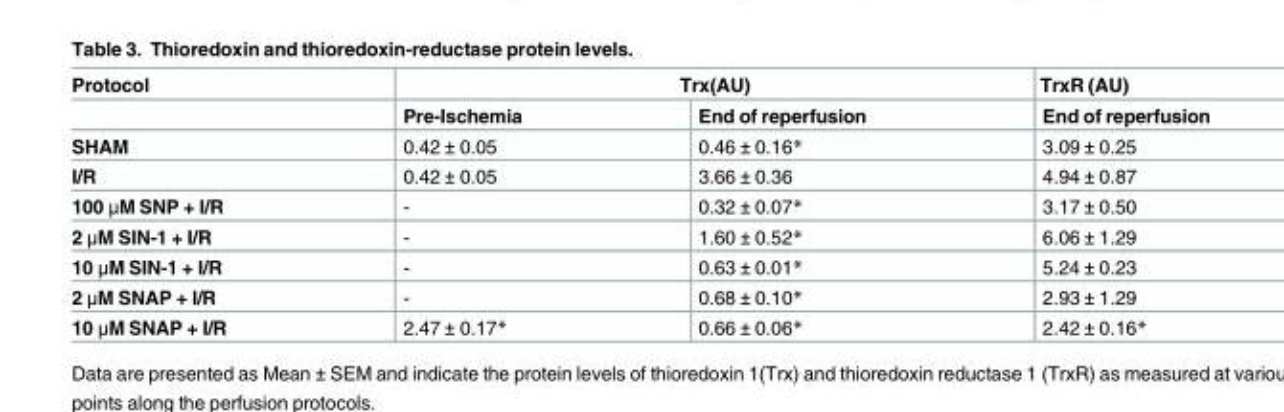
<table><thead><tr><td rowspan="2">Protocol</td><td colspan="2">Trx(AU)</td><td rowspan="2">TrxR (AU) End of reperfusion</td></tr><tr><td>Pre-Ischemia</td><td>End of reperfusion</td></tr></thead><tbody><tr><td>SHAM</td><td>0.42 ± 0.05</td><td>0.46 ± 0.16*</td><td>3.09 ± 0.25</td></tr><tr><td>I/R</td><td>0.42 ± 0.05</td><td>3.66 ± 0.36</td><td>4.94 ± 0.87</td></tr><tr><td>100 μM SNP + I/R</td><td>-</td><td>0.32 ± 0.07*</td><td>3.17 ± 0.50</td></tr><tr><td>2 μM SIN-1 + I/R</td><td>-</td><td>1.60 ± 0.52*</td><td>6.06 ± 1.29</td></tr><tr><td>10 μM SIN-1 + I/R</td><td>-</td><td>0.63 ± 0.01*</td><td>5.24 ± 0.23</td></tr><tr><td>2 μM SNAP + I/R</td><td>-</td><td>0.68 ± 0.10*</td><td>2.93 ± 1.29</td></tr><tr><td>10 μM SNAP + I/R</td><td>2.47 ± 0.17*</td><td>0.66 ± 0.06*</td><td>2.42 ± 0.16*</td></tr></tbody></table>